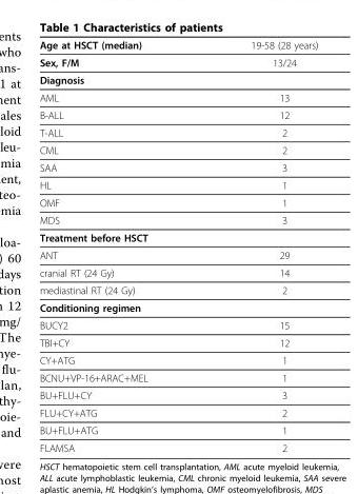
<table><thead><tr><td>Age at HSCT (median)</td><td>19-58 (28 years)</td></tr></thead><tbody><tr><td>Sex, F/M</td><td>13/24</td></tr><tr><td colspan="2">Diagnosis</td></tr><tr><td>AML</td><td>13</td></tr><tr><td>B-ALL</td><td>12</td></tr><tr><td>T-ALL</td><td>2</td></tr><tr><td>CML</td><td>2</td></tr><tr><td>SAA</td><td>3</td></tr><tr><td>HL</td><td>1</td></tr><tr><td>OMF</td><td>1</td></tr><tr><td>MDS</td><td>3</td></tr><tr><td colspan="2">Treatment before HSCT</td></tr><tr><td>ANT</td><td>29</td></tr><tr><td>cranial RT (24 Gy)</td><td>14</td></tr><tr><td>mediastinal RT (24 Gy)</td><td>2</td></tr><tr><td colspan="2">Conditioning regimen</td></tr><tr><td>BUCY2</td><td>15</td></tr><tr><td>TBI+CY</td><td>12</td></tr><tr><td>CY+ATG</td><td>1</td></tr><tr><td>BCNU+VP-16+ARAC+MEL</td><td>1</td></tr><tr><td>BU+FLU+CY</td><td>3</td></tr><tr><td>FLU+CY+ATG</td><td>2</td></tr><tr><td>BU+FLU+ATG</td><td>1</td></tr><tr><td>FLAMSA</td><td>2</td></tr></tbody></table>